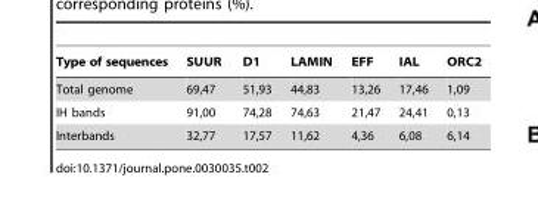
<table><thead><tr><td>Type of sequences</td><td>SUUR</td><td>D1</td><td>LAMIN</td><td>EFF</td><td>IAL</td><td>ORC2</td></tr></thead><tbody><tr><td>Total genome</td><td>69,47</td><td>51,93</td><td>44,83</td><td>13,26</td><td>17,46</td><td>1,09</td></tr><tr><td>IH bands</td><td>91,00</td><td>74,28</td><td>74,63</td><td>21,47</td><td>24,41</td><td>0,13</td></tr><tr><td>Interbands</td><td>32,77</td><td>17,57</td><td>11,62</td><td>4,36</td><td>6,08</td><td>6,14</td></tr></tbody></table>